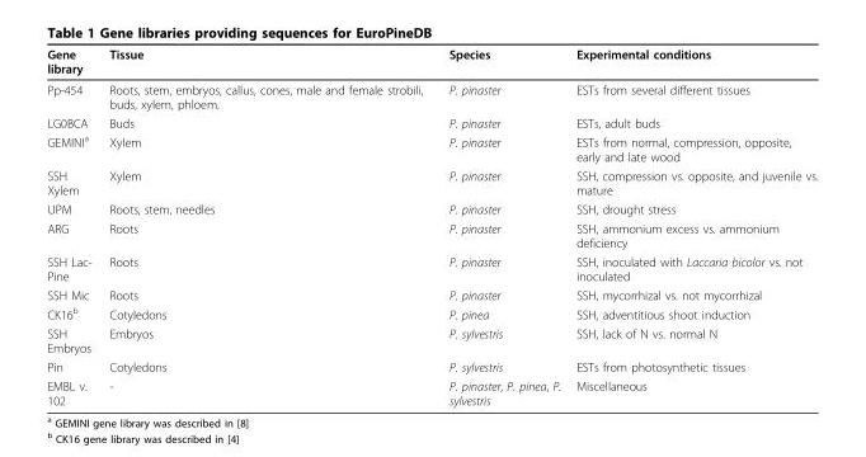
<table><thead><tr><td>Gene library</td><td>Tissue</td><td>Species</td><td>Experimental conditions</td></tr></thead><tbody><tr><td>Pp-454</td><td>Roots, stem, embryos, callus, cones, male and female strobili, buds, xylem, phloem.</td><td>P. pinaster</td><td>ESTs from several different tissues</td></tr><tr><td>LG0BCA</td><td>Buds</td><td>P. pinaster</td><td>ESTs, adult buds</td></tr><tr><td>GEMINI<sup>a</sup></td><td>Xylem</td><td>P. pinaster</td><td>ESTs from normal, compression, opposite, early and late wood</td></tr><tr><td>SSH Xylem</td><td>Xylem</td><td>P. pinaster</td><td>SSH, compression vs. opposite, and juvenile vs. mature</td></tr><tr><td>UPM</td><td>Roots, stem, needles</td><td>P. pinaster</td><td>SSH, drought stress</td></tr><tr><td>ARG</td><td>Roots</td><td>P. pinaster</td><td>SSH, ammonium excess vs. ammonium deficiency</td></tr><tr><td>SSH Lac- Pine</td><td>Roots</td><td>P. pinaster</td><td>SSH, inoculated with Laccaria bicolor vs. not inoculated</td></tr><tr><td>SSH Mic</td><td>Roots</td><td>P. pinaster</td><td>SSH, mycorrhizal vs. not mycorrhizal</td></tr><tr><td>CK16<sup>b</sup></td><td>Cotyledons</td><td>P. pinea</td><td>SSH, adventitious shoot induction</td></tr><tr><td>SSH Embryos</td><td>Embryos</td><td>P. sylvestris</td><td>SSH, lack of N vs. normal N</td></tr><tr><td>Pin</td><td>Cotyledons</td><td>P. sylvestris</td><td>ESTs from photosynthetic tissues</td></tr><tr><td>EMBL v. 102</td><td>-</td><td>P. pinaster, P. pinea, P. sylvestris</td><td>Miscellaneous</td></tr></tbody></table>